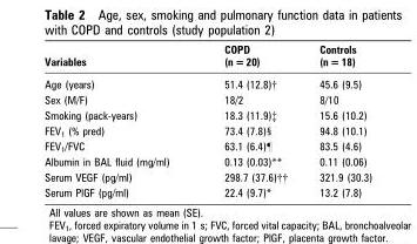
<table><thead><tr><td rowspan="2">Variables</td><td rowspan="2">COPD (n = 20)</td><td rowspan="2">Controls (n = 18)</td></tr><tr></tr></thead><tbody><tr><td>Age (years)</td><td>51.4 (12.8)†</td><td>45.6 (9.5)</td></tr><tr><td>Sex (M/F)</td><td>18/2</td><td>8/10</td></tr><tr><td>Smoking (pack-years)</td><td>18.3 (11.9)‡</td><td>15.6 (10.2)</td></tr><tr><td>FEV<sub>1</sub> (% pred)</td><td>73.4 (7.8)§</td><td>94.8 (10.1)</td></tr><tr><td>FEV<sub>1</sub>/FVC</td><td>63.1 (6.4)¶</td><td>83.5 (4.6)</td></tr><tr><td>Albumin in BAL fluid (mg/ml)</td><td>0.13 (0.03)**</td><td>0.11 (0.06)</td></tr><tr><td>Serum VEGF (pg/ml)</td><td>298.7 (37.6)††</td><td>321.9 (30.3)</td></tr><tr><td>Serum PlGF (pg/ml)</td><td>22.4 (9.7)*</td><td>13.2 (7.8)</td></tr></tbody></table>